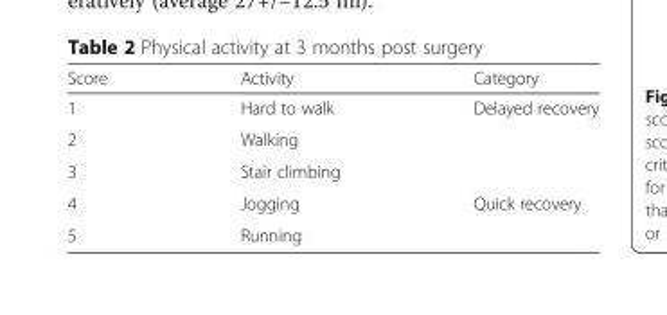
<table><thead><tr><td>Score</td><td>Activity</td><td>Category</td></tr></thead><tbody><tr><td>1</td><td>Hard to walk</td><td rowspan="3">Delayed recovery</td></tr><tr><td>2</td><td>Walking</td></tr><tr><td>3</td><td>Stair climbing</td></tr><tr><td>4</td><td>Jogging</td><td rowspan="2">Quick recovery</td></tr><tr><td>5</td><td>Running</td></tr></tbody></table>